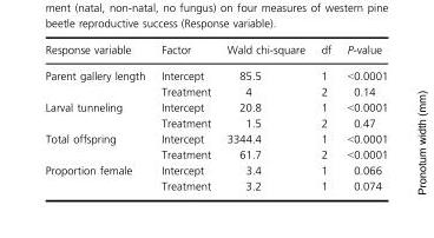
<table><thead><tr><td>Response variable</td><td>Factor</td><td>Wald chi-square</td><td>df</td><td>P-value</td></tr></thead><tbody><tr><td rowspan="2">Parent gallery length</td><td>Intercept</td><td>85.5</td><td>1</td><td>&lt;0.0001</td></tr><tr><td>Treatment</td><td>4</td><td>2</td><td>0.14</td></tr><tr><td rowspan="2">Larval tunneling</td><td>Intercept</td><td>20.8</td><td>1</td><td>&lt;0.0001</td></tr><tr><td>Treatment</td><td>1.5</td><td>2</td><td>0.47</td></tr><tr><td rowspan="2">Total offspring</td><td>Intercept</td><td>3344.4</td><td>1</td><td>&lt;0.0001</td></tr><tr><td>Treatment</td><td>61.7</td><td>2</td><td>&lt;0.0001</td></tr><tr><td rowspan="2">Proportion female</td><td>Intercept</td><td>3.4</td><td>1</td><td>0.066</td></tr><tr><td>Treatment</td><td>3.2</td><td>1</td><td>0.074</td></tr></tbody></table>